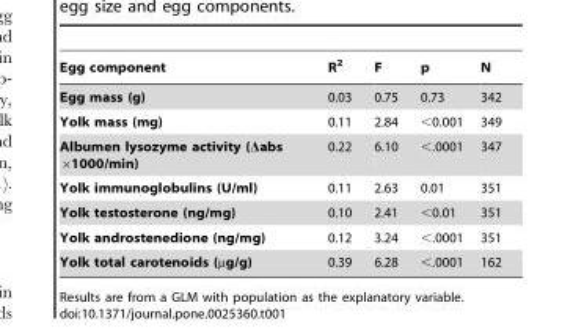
<table><thead><tr><td>Egg component</td><td>R<sup>2</sup></td><td>F</td><td>p</td><td>N</td></tr></thead><tbody><tr><td>Egg mass (g)</td><td>0.03</td><td>0.75</td><td>0.73</td><td>342</td></tr><tr><td>Yolk mass (mg)</td><td>0.11</td><td>2.84</td><td>&lt;0.001</td><td>349</td></tr><tr><td>Albumen lysozyme activity (Δabs ×1000/min)</td><td>0.22</td><td>6.10</td><td>&lt;.0001</td><td>347</td></tr><tr><td>Yolk immunoglobulins (U/ml)</td><td>0.11</td><td>2.63</td><td>0.01</td><td>351</td></tr><tr><td>Yolk testosterone (ng/mg)</td><td>0.10</td><td>2.41</td><td>&lt;0.01</td><td>351</td></tr><tr><td>Yolk androstenedione (ng/mg)</td><td>0.12</td><td>3.24</td><td>&lt;.0001</td><td>351</td></tr><tr><td>Yolk total carotenoids (µg/g)</td><td>0.39</td><td>6.28</td><td>&lt;.0001</td><td>162</td></tr></tbody></table>